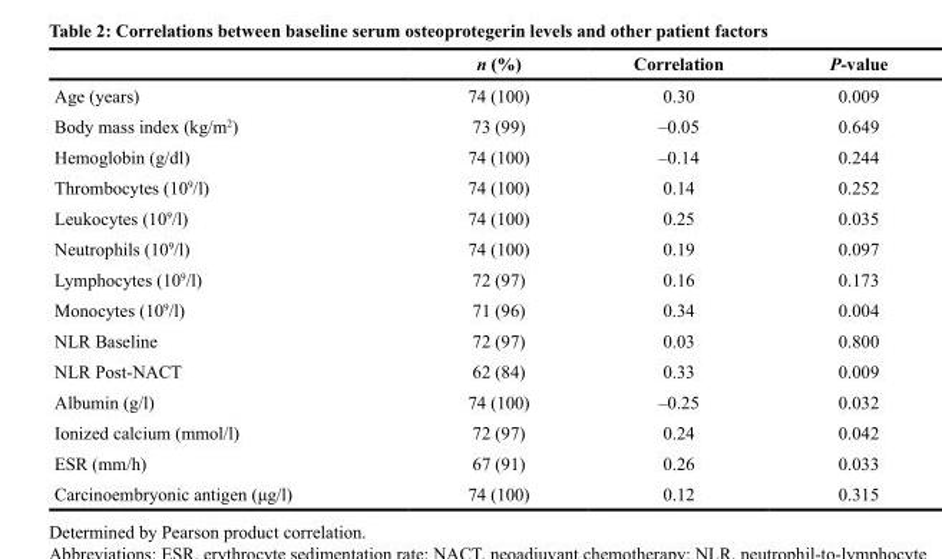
<table><thead><tr><td></td><td>n (%)</td><td>Correlation</td><td>P-value</td></tr></thead><tbody><tr><td>Age (years)</td><td>74 (100)</td><td>0.30</td><td>0.009</td></tr><tr><td>Body mass index (kg/m<sup>2</sup>)</td><td>73 (99)</td><td>–0.05</td><td>0.649</td></tr><tr><td>Hemoglobin (g/dl)</td><td>74 (100)</td><td>–0.14</td><td>0.244</td></tr><tr><td>Thrombocytes (10<sup>9</sup>/l)</td><td>74 (100)</td><td>0.14</td><td>0.252</td></tr><tr><td>Leukocytes (10<sup>9</sup>/l)</td><td>74 (100)</td><td>0.25</td><td>0.035</td></tr><tr><td>Neutrophils (10<sup>9</sup>/l)</td><td>74 (100)</td><td>0.19</td><td>0.097</td></tr><tr><td>Lymphocytes (10<sup>9</sup>/l)</td><td>72 (97)</td><td>0.16</td><td>0.173</td></tr><tr><td>Monocytes (10<sup>9</sup>/l)</td><td>71 (96)</td><td>0.34</td><td>0.004</td></tr><tr><td>NLR Baseline</td><td>72 (97)</td><td>0.03</td><td>0.800</td></tr><tr><td>NLR Post-NACT</td><td>62 (84)</td><td>0.33</td><td>0.009</td></tr><tr><td>Albumin (g/l)</td><td>74 (100)</td><td>–0.25</td><td>0.032</td></tr><tr><td>Ionized calcium (mmol/l)</td><td>72 (97)</td><td>0.24</td><td>0.042</td></tr><tr><td>ESR (mm/h)</td><td>67 (91)</td><td>0.26</td><td>0.033</td></tr><tr><td>Carcinoembryonic antigen (μg/l)</td><td>74 (100)</td><td>0.12</td><td>0.315</td></tr></tbody></table>